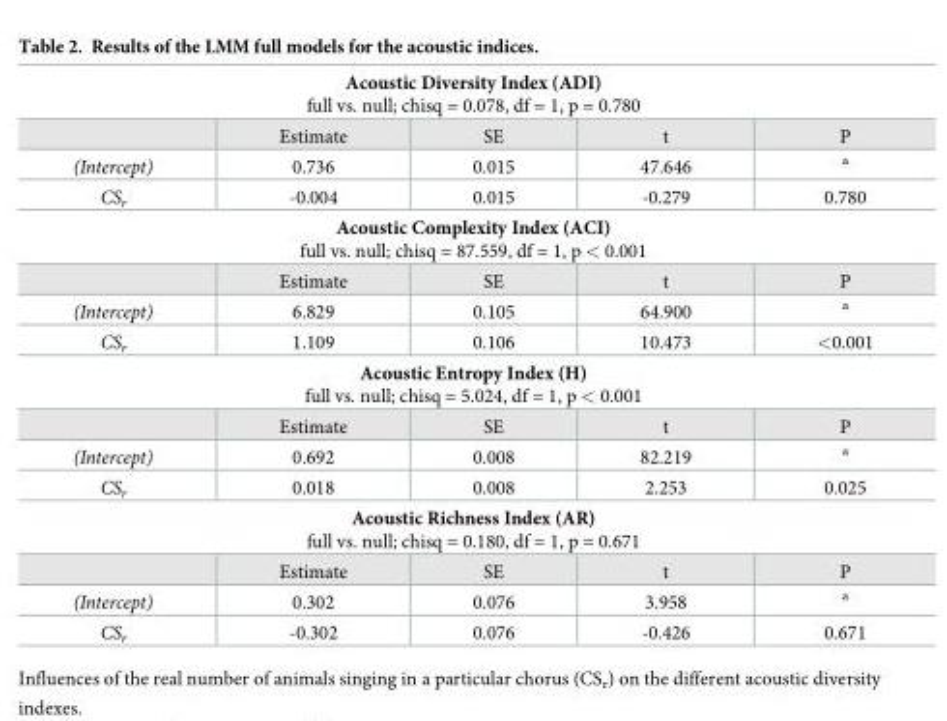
<table><tbody><tr><td colspan="5">Acoustic Diversity Index (ADI) full vs. null; chisq = 0.078, df = 1, p = 0.780</td></tr><tr><td></td><td>Estimate</td><td>SE</td><td>t</td><td>P</td></tr><tr><td>(Intercept)</td><td>0.736</td><td>0.015</td><td>47.646</td><td><sup>a</sup></td></tr><tr><td>CS<sub>r</sub></td><td>-0.004</td><td>0.015</td><td>-0.279</td><td>0.780</td></tr><tr><td colspan="5">Acoustic Complexity Index (ACI) full vs. null; chisq = 87.559, df = 1, p &lt; 0.001</td></tr><tr><td></td><td>Estimate</td><td>SE</td><td>t</td><td>P</td></tr><tr><td>(Intercept)</td><td>6.829</td><td>0.105</td><td>64.900</td><td><sup>a</sup></td></tr><tr><td>CS<sub>r</sub></td><td>1.109</td><td>0.106</td><td>10.473</td><td>&lt;0.001</td></tr><tr><td colspan="5">Acoustic Entropy Index (H) full vs. null; chisq = 5.024, df = 1, p &lt; 0.001</td></tr><tr><td></td><td>Estimate</td><td>SE</td><td>t</td><td>P</td></tr><tr><td>(Intercept)</td><td>0.692</td><td>0.008</td><td>82.219</td><td><sup>a</sup></td></tr><tr><td>CS<sub>r</sub></td><td>0.018</td><td>0.008</td><td>2.253</td><td>0.025</td></tr><tr><td colspan="5">Acoustic Richness Index (AR) full vs. null; chisq = 0.180, df = 1, p = 0.671</td></tr><tr><td></td><td>Estimate</td><td>SE</td><td>t</td><td>P</td></tr><tr><td>(Intercept)</td><td>0.302</td><td>0.076</td><td>3.958</td><td><sup>a</sup></td></tr><tr><td>CS<sub>r</sub></td><td>-0.302</td><td>0.076</td><td>-0.426</td><td>0.671</td></tr></tbody></table>